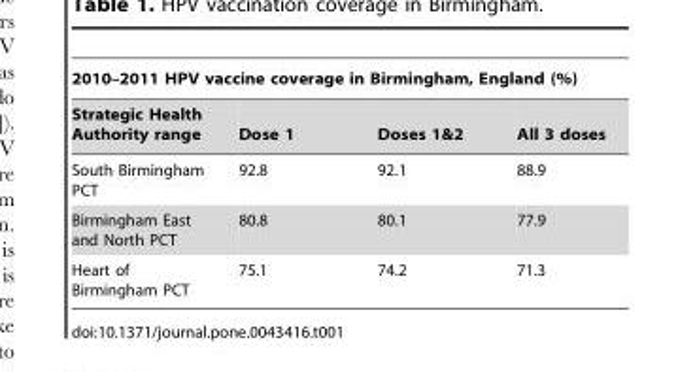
<table><thead><tr><td colspan="4">2010–2011 HPV vaccine coverage in Birmingham, England (%)</td></tr><tr><td>Strategic Health Authority range</td><td>Dose 1</td><td>Doses 1&amp;2</td><td>All 3 doses</td></tr></thead><tbody><tr><td>South Birmingham PCT</td><td>92.8</td><td>92.1</td><td>88.9</td></tr><tr><td>Birmingham East and North PCT</td><td>80.8</td><td>80.1</td><td>77.9</td></tr><tr><td>Heart of Birmingham PCT</td><td>75.1</td><td>74.2</td><td>71.3</td></tr></tbody></table>